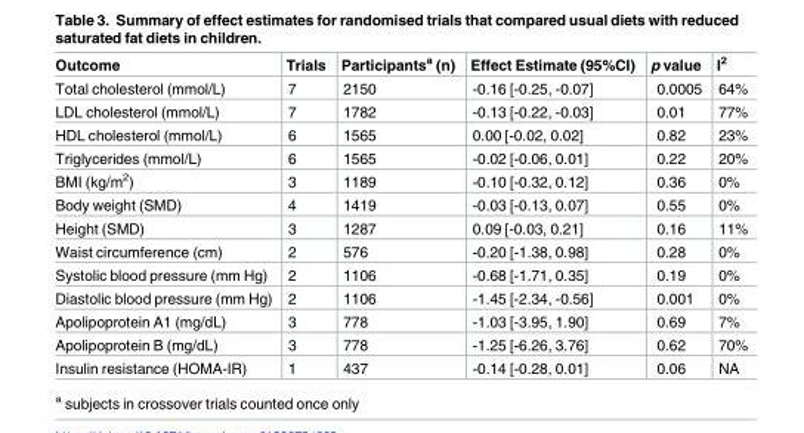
<table><thead><tr><td>Outcome</td><td>Trials</td><td>Participants<sup>a</sup> (n)</td><td>Effect Estimate (95%CI)</td><td>p value</td><td>I<sup>2</sup></td></tr></thead><tbody><tr><td>Total cholesterol (mmol/L)</td><td>7</td><td>2150</td><td>-0.16 [-0.25, -0.07]</td><td>0.0005</td><td>64%</td></tr><tr><td>LDL cholesterol (mmol/L)</td><td>7</td><td>1782</td><td>-0.13 [-0.22, -0.03]</td><td>0.01</td><td>77%</td></tr><tr><td>HDL cholesterol (mmol/L)</td><td>6</td><td>1565</td><td>0.00 [-0.02, 0.02]</td><td>0.82</td><td>23%</td></tr><tr><td>Triglycerides (mmol/L)</td><td>6</td><td>1565</td><td>-0.02 [-0.06, 0.01]</td><td>0.22</td><td>20%</td></tr><tr><td>BMI (kg/m<sup>2</sup>)</td><td>3</td><td>1189</td><td>-0.10 [-0.32, 0.12]</td><td>0.36</td><td>0%</td></tr><tr><td>Body weight (SMD)</td><td>4</td><td>1419</td><td>-0.03 [-0.13, 0.07]</td><td>0.55</td><td>0%</td></tr><tr><td>Height (SMD)</td><td>3</td><td>1287</td><td>0.09 [-0.03, 0.21]</td><td>0.16</td><td>11%</td></tr><tr><td>Waist circumference (cm)</td><td>2</td><td>576</td><td>-0.20 [-1.38, 0.98]</td><td>0.28</td><td>0%</td></tr><tr><td>Systolic blood pressure (mm Hg)</td><td>2</td><td>1106</td><td>-0.68 [-1.71, 0.35]</td><td>0.19</td><td>0%</td></tr><tr><td>Diastolic blood pressure (mm Hg)</td><td>2</td><td>1106</td><td>-1.45 [-2.34, -0.56]</td><td>0.001</td><td>0%</td></tr><tr><td>Apolipoprotein A1 (mg/dL)</td><td>3</td><td>778</td><td>-1.03 [-3.95, 1.90]</td><td>0.69</td><td>7%</td></tr><tr><td>Apolipoprotein B (mg/dL)</td><td>3</td><td>778</td><td>-1.25 [-6.26, 3.76]</td><td>0.62</td><td>70%</td></tr><tr><td>Insulin resistance (HOMA-IR)</td><td>1</td><td>437</td><td>-0.14 [-0.28, 0.01]</td><td>0.06</td><td>NA</td></tr></tbody></table>